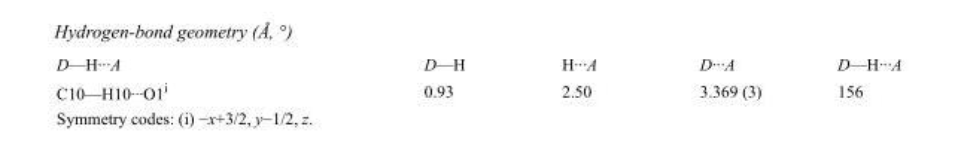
<table><tbody><tr><td>D—H···A</td><td>D—H</td><td>H···A</td><td>D···A</td><td>D—H···A</td></tr><tr><td>C10—H10···O1<sup>i</sup></td><td>0.93</td><td>2.50</td><td>3.369 (3)</td><td>156</td></tr></tbody></table>